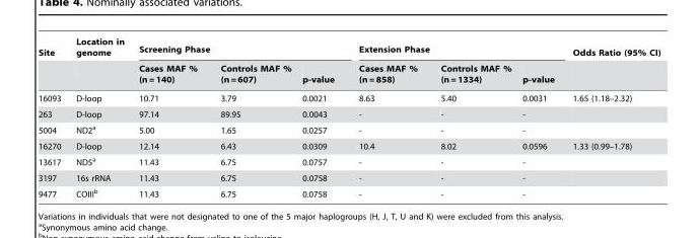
<table><thead><tr><td rowspan="2">Site</td><td rowspan="2">Location in genome</td><td colspan="3">Screening Phase</td><td colspan="3">Extension Phase</td><td rowspan="2">Odds Ratio (95% CI)</td></tr><tr><td>Cases MAF % (n = 140)</td><td>Controls MAF % (n = 607)</td><td>p-value</td><td>Cases MAF % (n = 858)</td><td>Controls MAF % (n = 1334)</td><td>p-value</td></tr></thead><tbody><tr><td>16093</td><td>D-loop</td><td>10.71</td><td>3.79</td><td>0.0021</td><td>8.63</td><td>5.40</td><td>0.0031</td><td>1.65 (1.18–2.32)</td></tr><tr><td>263</td><td>D-loop</td><td>97.14</td><td>89.95</td><td>0.0043</td><td>-</td><td>-</td><td>-</td><td></td></tr><tr><td>5004</td><td>ND2<sup>a</sup></td><td>5.00</td><td>1.65</td><td>0.0257</td><td>-</td><td>-</td><td>-</td><td></td></tr><tr><td>16270</td><td>D-loop</td><td>12.14</td><td>6.43</td><td>0.0309</td><td>10.4</td><td>8.02</td><td>0.0596</td><td>1.33 (0.99–1.78)</td></tr><tr><td>13617</td><td>ND5<sup>a</sup></td><td>11.43</td><td>6.75</td><td>0.0757</td><td>-</td><td>-</td><td>-</td><td></td></tr><tr><td>3197</td><td>16s rRNA</td><td>11.43</td><td>6.75</td><td>0.0758</td><td>-</td><td>-</td><td>-</td><td></td></tr><tr><td>9477</td><td>COIII<sup>b</sup></td><td>11.43</td><td>6.75</td><td>0.0758</td><td>-</td><td>-</td><td>-</td><td></td></tr></tbody></table>